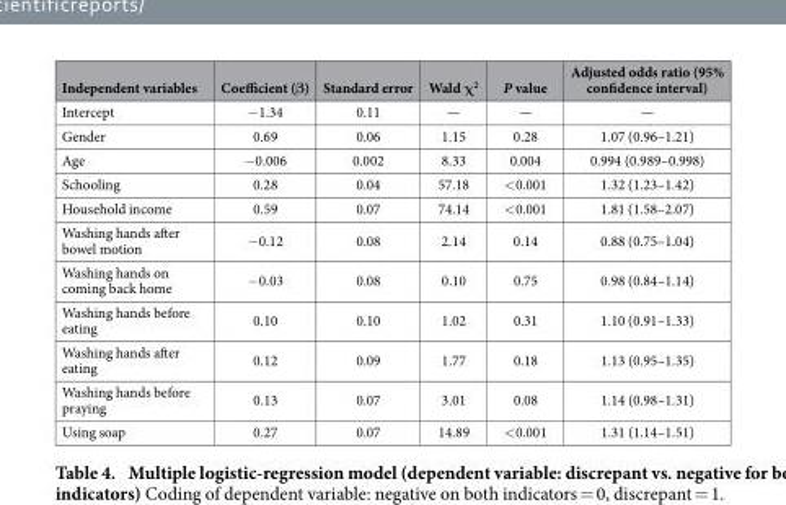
<table><thead><tr><td>Independent variables</td><td>Coefficient (β)</td><td>Standard error</td><td>Wald χ<sup>2</sup></td><td>P value</td><td>Adjusted odds ratio (95% confidence interval)</td></tr></thead><tbody><tr><td>Intercept</td><td>− 1.34</td><td>0.11</td><td>—</td><td>—</td><td>—</td></tr><tr><td>Gender</td><td>0.69</td><td>0.06</td><td>1.15</td><td>0.28</td><td>1.07 (0.96–1.21)</td></tr><tr><td>Age</td><td>− 0.006</td><td>0.002</td><td>8.33</td><td>0.004</td><td>0.994 (0.989–0.998)</td></tr><tr><td>Schooling</td><td>0.28</td><td>0.04</td><td>57.18</td><td>&lt; 0.001</td><td>1.32 (1.23–1.42)</td></tr><tr><td>Household income</td><td>0.59</td><td>0.07</td><td>74.14</td><td>&lt; 0.001</td><td>1.81 (1.58–2.07)</td></tr><tr><td>Washing hands after bowel motion</td><td>− 0.12</td><td>0.08</td><td>2.14</td><td>0.14</td><td>0.88 (0.75–1.04)</td></tr><tr><td>Washing hands on coming back home</td><td>− 0.03</td><td>0.08</td><td>0.10</td><td>0.75</td><td>0.98 (0.84–1.14)</td></tr><tr><td>Washing hands before eating</td><td>0.10</td><td>0.10</td><td>1.02</td><td>0.31</td><td>1.10 (0.91–1.33)</td></tr><tr><td>Washing hands after eating</td><td>0.12</td><td>0.09</td><td>1.77</td><td>0.18</td><td>1.13 (0.95–1.35)</td></tr><tr><td>Washing hands before praying</td><td>0.13</td><td>0.07</td><td>3.01</td><td>0.08</td><td>1.14 (0.98–1.31)</td></tr><tr><td>Using soap</td><td>0.27</td><td>0.07</td><td>14.89</td><td>&lt; 0.001</td><td>1.31 (1.14–1.51)</td></tr></tbody></table>